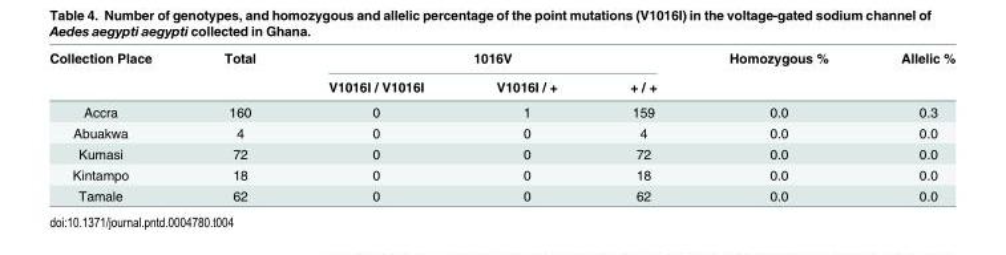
<table><thead><tr><td rowspan="2">Collection Place</td><td rowspan="2">Total</td><td colspan="3">1016V</td><td rowspan="2">Homozygous %</td><td rowspan="2">Allelic %</td></tr><tr><td>V1016I / V1016I</td><td>V1016I / +</td><td>+ / +</td></tr></thead><tbody><tr><td>Accra</td><td>160</td><td>0</td><td>1</td><td>159</td><td>0.0</td><td>0.3</td></tr><tr><td>Abuakwa</td><td>4</td><td>0</td><td>0</td><td>4</td><td>0.0</td><td>0.0</td></tr><tr><td>Kumasi</td><td>72</td><td>0</td><td>0</td><td>72</td><td>0.0</td><td>0.0</td></tr><tr><td>Kintampo</td><td>18</td><td>0</td><td>0</td><td>18</td><td>0.0</td><td>0.0</td></tr><tr><td>Tamale</td><td>62</td><td>0</td><td>0</td><td>62</td><td>0.0</td><td>0.0</td></tr></tbody></table>